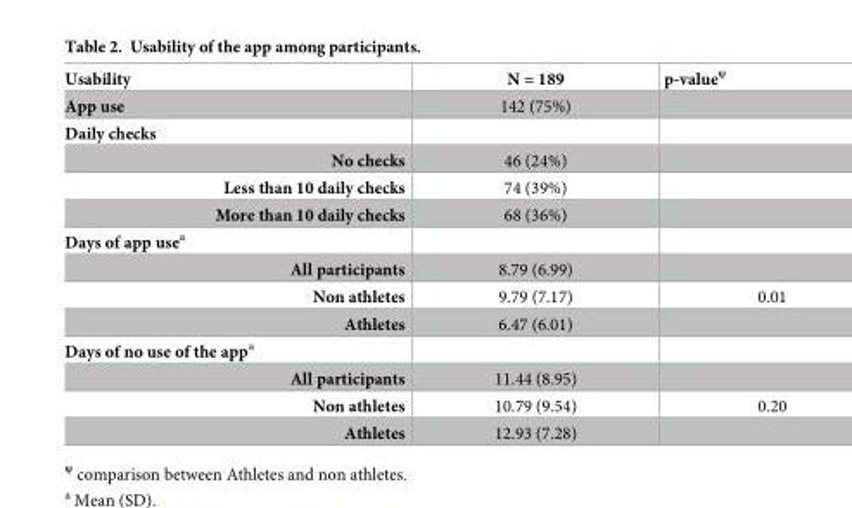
<table><thead><tr><td>Usability</td><td>N = 189</td><td>p-value<sup>ψ</sup></td></tr></thead><tbody><tr><td>App use</td><td>142 (75%)</td><td></td></tr><tr><td colspan="3">Daily checks</td></tr><tr><td>No checks</td><td>46 (24%)</td><td></td></tr><tr><td>Less than 10 daily checks</td><td>74 (39%)</td><td></td></tr><tr><td>More than 10 daily checks</td><td>68 (36%)</td><td></td></tr><tr><td colspan="3">Days of app use<sup>a</sup></td></tr><tr><td>All participants</td><td>8.79 (6.99)</td><td></td></tr><tr><td>Non athletes</td><td>9.79 (7.17)</td><td>0.01</td></tr><tr><td>Athletes</td><td>6.47 (6.01)</td><td></td></tr><tr><td colspan="3">Days of no use of the app<sup>a</sup></td></tr><tr><td>All participants</td><td>11.44 (8.95)</td><td></td></tr><tr><td>Non athletes</td><td>10.79 (9.54)</td><td>0.20</td></tr><tr><td>Athletes</td><td>12.93 (7.28)</td><td></td></tr></tbody></table>